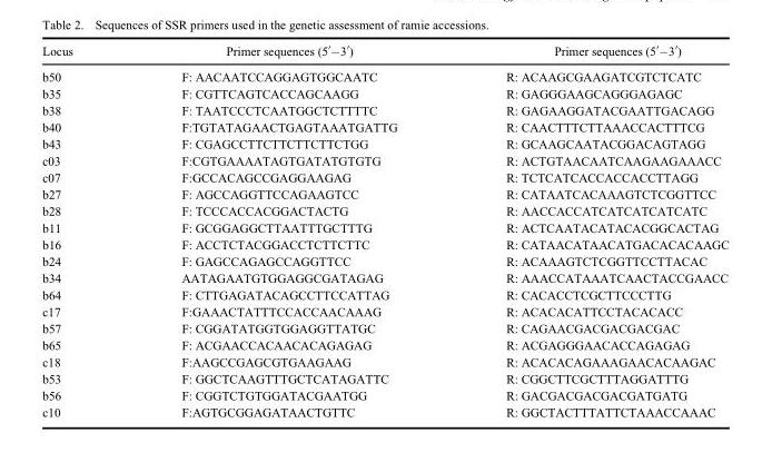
<table><thead><tr><td>Locus</td><td>Primer sequences (5<sup>′</sup>–3<sup>′</sup>)</td><td>Primer sequences (5<sup>′</sup>–3<sup>′</sup>)</td></tr></thead><tbody><tr><td>b50</td><td>F: AACAATCCAGGAGTGGCAATC</td><td>R: ACAAGCGAAGATCGTCTCATC</td></tr><tr><td>b35</td><td>F: CGTTCAGTCACCAGCAAGG</td><td>R: GAGGGAAGCAGGGAGAGC</td></tr><tr><td>b38</td><td>F: TAATCCCTCAATGGCTCTTTTC</td><td>R: GAGAAGGATACGAATTGACAGG</td></tr><tr><td>b40</td><td>F:TGTATAGAACTGAGTAAATGATTG</td><td>R: CAACTTTCTTAAACCACTTTCG</td></tr><tr><td>b43</td><td>F: CGAGCCTTCTTCTTCTTCTGG</td><td>R: GCAAGCAATACGGACAGTAGG</td></tr><tr><td>c03</td><td>F:CGTGAAAATAGTGATATGTGTG</td><td>R: ACTGTAACAATCAAGAAGAAACC</td></tr><tr><td>c07</td><td>F:GCCACAGCCGAGGAAGAG</td><td>R: TCTCATCACCACCACCTTAGG</td></tr><tr><td>b27</td><td>F: AGCCAGGTTCCAGAAGTCC</td><td>R: CATAATCACAAAGTCTCGGTTCC</td></tr><tr><td>b28</td><td>F: TCCCACCACGGACTACTG</td><td>R: AACCACCATCATCATCATCATC</td></tr><tr><td>b11</td><td>F: GCGGAGGCTTAATTTGCTTTG</td><td>R: ACTCAATACATACACGGCACTAG</td></tr><tr><td>b16</td><td>F: ACCTCTACGGACCTCTTCTTC</td><td>R: CATAACATAACATGACACACAAGC</td></tr><tr><td>b24</td><td>F: GAGCCAGAGCCAGGTTCC</td><td>R: ACAAAGTCTCGGTTCCTTACAC</td></tr><tr><td>b34</td><td>AATAGAATGTGGAGGCGATAGAG</td><td>R: AAACCATAAATCAACTACCGAACC</td></tr><tr><td>b64</td><td>F: CTTGAGATACAGCCTTCCATTAG</td><td>R: CACACCTCGCTTCCCTTG</td></tr><tr><td>c17</td><td>F:GAAACTATTTCCACCAACAAAG</td><td>R: ACACACATTCCTACACACC</td></tr><tr><td>b57</td><td>F: CGGATATGGTGGAGGTTATGC</td><td>R: CAGAACGACGACGACGAC</td></tr><tr><td>b65</td><td>F: ACGAACCACAACACAGAGAG</td><td>R: ACGAGGGAACACCAGAGAG</td></tr><tr><td>c18</td><td>F:AAGCCGAGCGTGAAGAAG</td><td>R: ACACACAGAAAGAACACAAGAC</td></tr><tr><td>b53</td><td>F: GGCTCAAGTTTGCTCATAGATTC</td><td>R: CGGCTTCGCTTTAGGATTTG</td></tr><tr><td>b56</td><td>F: CGGTCTGTGGATACGAATGG</td><td>R: GACGACGACGACGATGATG</td></tr><tr><td>c10</td><td>F:AGTGCGGAGATAACTGTTC</td><td>R: GGCTACTTTATTCTAAACCAAAC</td></tr></tbody></table>